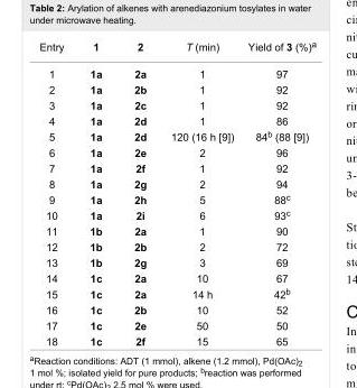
<table><tbody><tr><td>Entry</td><td>1</td><td>2</td><td>T (min)</td><td>Yield of 3 (%)<sup>a</sup></td></tr><tr><td>1</td><td>1a</td><td>2a</td><td>1</td><td>97</td></tr><tr><td>2</td><td>1a</td><td>2b</td><td>1</td><td>92</td></tr><tr><td>3</td><td>1a</td><td>2c</td><td>1</td><td>92</td></tr><tr><td>4</td><td>1a</td><td>2d</td><td>1</td><td>86</td></tr><tr><td>5</td><td>1a</td><td>2d</td><td>120 (16 h [9])</td><td>84<sup>b</sup> (88 [9])</td></tr><tr><td>6</td><td>1a</td><td>2e</td><td>2</td><td>96</td></tr><tr><td>7</td><td>1a</td><td>2f</td><td>1</td><td>92</td></tr><tr><td>8</td><td>1a</td><td>2g</td><td>2</td><td>94</td></tr><tr><td>9</td><td>1a</td><td>2h</td><td>5</td><td>88<sup>c</sup></td></tr><tr><td>10</td><td>1a</td><td>2i</td><td>6</td><td>93<sup>c</sup></td></tr><tr><td>11</td><td>1b</td><td>2a</td><td>1</td><td>90</td></tr><tr><td>12</td><td>1b</td><td>2b</td><td>2</td><td>72</td></tr><tr><td>13</td><td>1b</td><td>2g</td><td>3</td><td>69</td></tr><tr><td>14</td><td>1c</td><td>2a</td><td>10</td><td>67</td></tr><tr><td>15</td><td>1c</td><td>2a</td><td>14 h</td><td>42<sup>b</sup></td></tr><tr><td>16</td><td>1c</td><td>2b</td><td>10</td><td>52</td></tr><tr><td>17</td><td>1c</td><td>2e</td><td>50</td><td>50</td></tr><tr><td>18</td><td>1c</td><td>2f</td><td>15</td><td>65</td></tr></tbody></table>